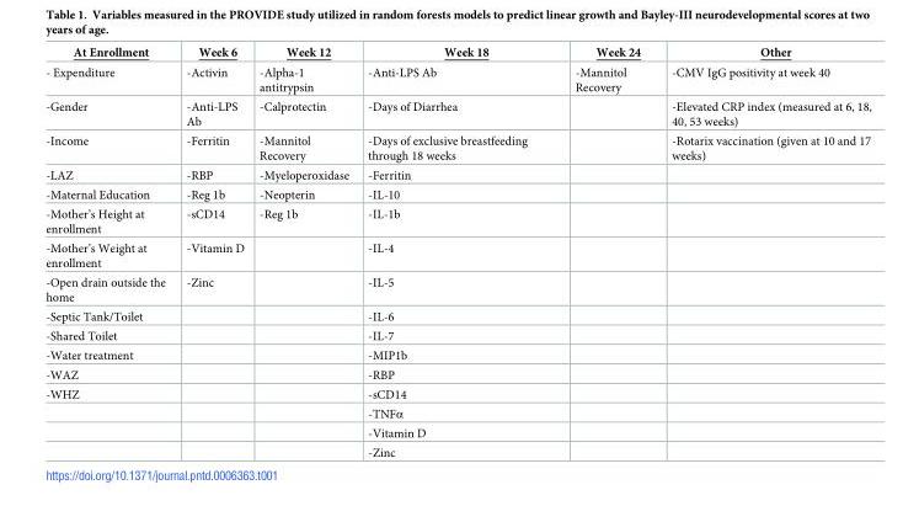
<table><thead><tr><td>At Enrollment</td><td>Week 6</td><td>Week 12</td><td>Week 18</td><td>Week 24</td><td>Other</td></tr></thead><tbody><tr><td>- Expenditure</td><td>-Activin</td><td>-Alpha-1 antitrypsin</td><td>-Anti-LPS Ab</td><td>-Mannitol Recovery</td><td>-CMV IgG positivity at week 40</td></tr><tr><td>-Gender</td><td>-Anti-LPS Ab</td><td>-Calprotectin</td><td>-Days of Diarrhea</td><td></td><td>-Elevated CRP index (measured at 6, 18, 40, 53 weeks)</td></tr><tr><td>-Income</td><td>-Ferritin</td><td>-Mannitol Recovery</td><td>-Days of exclusive breastfeeding through 18 weeks</td><td></td><td>-Rotarix vaccination (given at 10 and 17 weeks)</td></tr><tr><td>-LAZ</td><td>-RBP</td><td>-Myeloperoxidase</td><td>-Ferritin</td><td></td><td></td></tr><tr><td>-Maternal Education</td><td>-Reg 1b</td><td>-Neopterin</td><td>-IL-10</td><td></td><td></td></tr><tr><td>-Mother’s Height at enrollment</td><td>-sCD14</td><td>-Reg 1b</td><td>-IL-1b</td><td></td><td></td></tr><tr><td>-Mother’s Weight at enrollment</td><td>-Vitamin D</td><td></td><td>-IL-4</td><td></td><td></td></tr><tr><td>-Open drain outside the home</td><td>-Zinc</td><td></td><td>-IL-5</td><td></td><td></td></tr><tr><td>-Septic Tank/Toilet</td><td></td><td></td><td>-IL-6</td><td></td><td></td></tr><tr><td>-Shared Toilet</td><td></td><td></td><td>-IL-7</td><td></td><td></td></tr><tr><td>-Water treatment</td><td></td><td></td><td>-MIP1b</td><td></td><td></td></tr><tr><td>-WAZ</td><td></td><td></td><td>-RBP</td><td></td><td></td></tr><tr><td rowspan="4">-WHZ</td><td></td><td></td><td>-sCD14</td><td></td><td></td></tr><tr><td></td><td></td><td>-TNFα</td><td></td><td></td></tr><tr><td></td><td></td><td>-Vitamin D</td><td></td><td></td></tr><tr><td></td><td></td><td>-Zinc</td><td></td><td></td></tr></tbody></table>